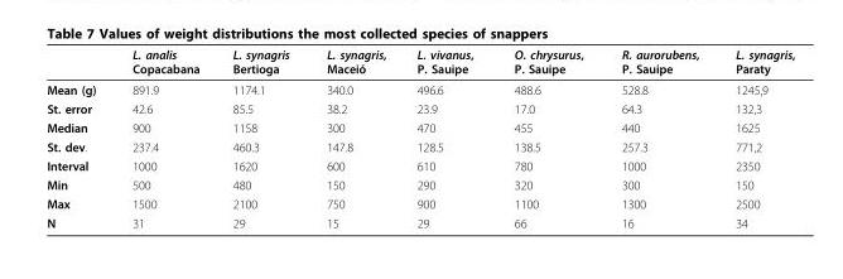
<table><thead><tr><td></td><td>L. analis Copacabana</td><td>L. synagris Bertioga</td><td>L. synagris, Maceió</td><td>L. vivanus, P. Sauipe</td><td>O. chrysurus, P. Sauipe</td><td>R. aurorubens, P. Sauipe</td><td>L. synagris, Paraty</td></tr></thead><tbody><tr><td>Mean (g)</td><td>891.9</td><td>1174.1</td><td>340.0</td><td>496.6</td><td>488.6</td><td>528.8</td><td>1245,9</td></tr><tr><td>St. error</td><td>42.6</td><td>85.5</td><td>38.2</td><td>23.9</td><td>17.0</td><td>64.3</td><td>132,3</td></tr><tr><td>Median</td><td>900</td><td>1158</td><td>300</td><td>470</td><td>455</td><td>440</td><td>1625</td></tr><tr><td>St. dev.</td><td>237.4</td><td>460.3</td><td>147.8</td><td>128.5</td><td>138.5</td><td>257.3</td><td>771,2</td></tr><tr><td>Interval</td><td>1000</td><td>1620</td><td>600</td><td>610</td><td>780</td><td>1000</td><td>2350</td></tr><tr><td>Min</td><td>500</td><td>480</td><td>150</td><td>290</td><td>320</td><td>300</td><td>150</td></tr><tr><td>Max</td><td>1500</td><td>2100</td><td>750</td><td>900</td><td>1100</td><td>1300</td><td>2500</td></tr><tr><td>N</td><td>31</td><td>29</td><td>15</td><td>29</td><td>66</td><td>16</td><td>34</td></tr></tbody></table>